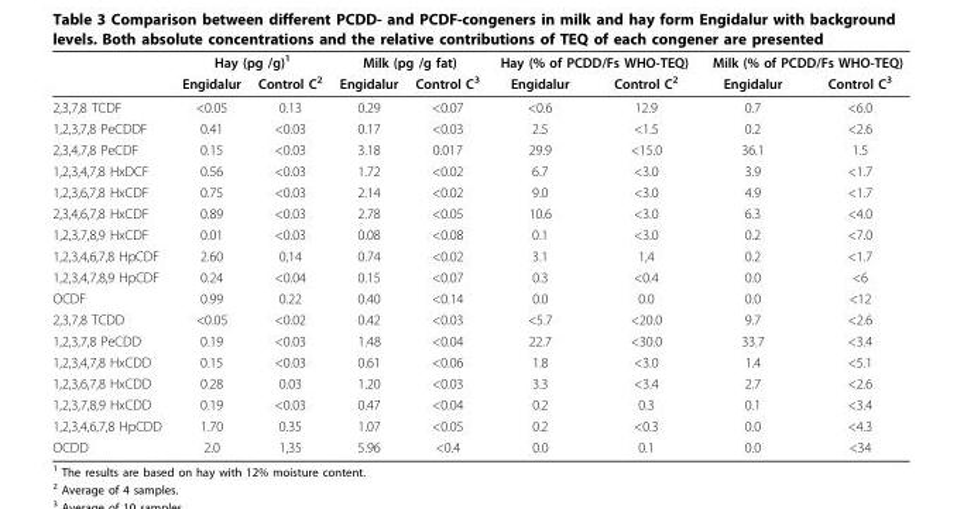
<table><thead><tr><td rowspan="2"></td><td colspan="2">Hay (pg /g)<sup>1</sup></td><td colspan="2">Milk (pg /g fat)</td><td colspan="2">Hay (% of PCDD/Fs WHO-TEQ)</td><td colspan="2">Milk (% of PCDD/Fs WHO-TEQ)</td></tr><tr><td>Engidalur</td><td>Control C<sup>2</sup></td><td>Engidalur</td><td>Control C<sup>3</sup></td><td>Engidalur</td><td>Control C<sup>2</sup></td><td>Engidalur</td><td>Control C<sup>3</sup></td></tr></thead><tbody><tr><td>2,3,7,8 TCDF</td><td>&lt;0.05</td><td>0.13</td><td>0.29</td><td>&lt;0.07</td><td>&lt;0.6</td><td>12.9</td><td>0.7</td><td>&lt;6.0</td></tr><tr><td>1,2,3,7,8 PeCDDF</td><td>0.41</td><td>&lt;0.03</td><td>0.17</td><td>&lt;0.03</td><td>2.5</td><td>&lt;1.5</td><td>0.2</td><td>&lt;2.6</td></tr><tr><td>2,3,4,7,8 PeCDF</td><td>0.15</td><td>&lt;0.03</td><td>3.18</td><td>0.017</td><td>29.9</td><td>&lt;15.0</td><td>36.1</td><td>1.5</td></tr><tr><td>1,2,3,4,7,8 HxDCF</td><td>0.56</td><td>&lt;0.03</td><td>1.72</td><td>&lt;0.02</td><td>6.7</td><td>&lt;3.0</td><td>3.9</td><td>&lt;1.7</td></tr><tr><td>1,2,3,6,7,8 HxCDF</td><td>0.75</td><td>&lt;0.03</td><td>2.14</td><td>&lt;0.02</td><td>9.0</td><td>&lt;3.0</td><td>4.9</td><td>&lt;1.7</td></tr><tr><td>2,3,4,6,7,8 HxCDF</td><td>0.89</td><td>&lt;0.03</td><td>2.78</td><td>&lt;0.05</td><td>10.6</td><td>&lt;3.0</td><td>6.3</td><td>&lt;4.0</td></tr><tr><td>1,2,3,7,8,9 HxCDF</td><td>0.01</td><td>&lt;0.03</td><td>0.08</td><td>&lt;0.08</td><td>0.1</td><td>&lt;3.0</td><td>0.2</td><td>&lt;7.0</td></tr><tr><td>1,2,3,4,6,7,8 HpCDF</td><td>2.60</td><td>0,14</td><td>0.74</td><td>&lt;0.02</td><td>3.1</td><td>1,4</td><td>0.2</td><td>&lt;1.7</td></tr><tr><td>1,2,3,4,7,8,9 HpCDF</td><td>0.24</td><td>&lt;0.04</td><td>0.15</td><td>&lt;0.07</td><td>0.3</td><td>&lt;0.4</td><td>0.0</td><td>&lt;6</td></tr><tr><td>OCDF</td><td>0.99</td><td>0.22</td><td>0.40</td><td>&lt;0.14</td><td>0.0</td><td>0.0</td><td>0.0</td><td>&lt;12</td></tr><tr><td>2,3,7,8 TCDD</td><td>&lt;0.05</td><td>&lt;0.02</td><td>0.42</td><td>&lt;0.03</td><td>&lt;5.7</td><td>&lt;20.0</td><td>9.7</td><td>&lt;2.6</td></tr><tr><td>1,2,3,7,8 PeCDD</td><td>0.19</td><td>&lt;0.03</td><td>1.48</td><td>&lt;0.04</td><td>22.7</td><td>&lt;30.0</td><td>33.7</td><td>&lt;3.4</td></tr><tr><td>1,2,3,4,7,8 HxCDD</td><td>0.15</td><td>&lt;0.03</td><td>0.61</td><td>&lt;0.06</td><td>1.8</td><td>&lt;3.0</td><td>1.4</td><td>&lt;5.1</td></tr><tr><td>1,2,3,6,7,8 HxCDD</td><td>0.28</td><td>0.03</td><td>1.20</td><td>&lt;0.03</td><td>3.3</td><td>&lt;3.4</td><td>2.7</td><td>&lt;2.6</td></tr><tr><td>1,2,3,7,8,9 HxCDD</td><td>0.19</td><td>&lt;0.03</td><td>0.47</td><td>&lt;0.04</td><td>0.2</td><td>0.3</td><td>0.1</td><td>&lt;3.4</td></tr><tr><td>1,2,3,4,6,7,8 HpCDD</td><td>1.70</td><td>0.35</td><td>1.07</td><td>&lt;0.05</td><td>0.2</td><td>&lt;0.3</td><td>0.0</td><td>&lt;4.3</td></tr><tr><td>OCDD</td><td>2.0</td><td>1,35</td><td>5.96</td><td>&lt;0.4</td><td>0.0</td><td>0.1</td><td>0.0</td><td>&lt;34</td></tr></tbody></table>